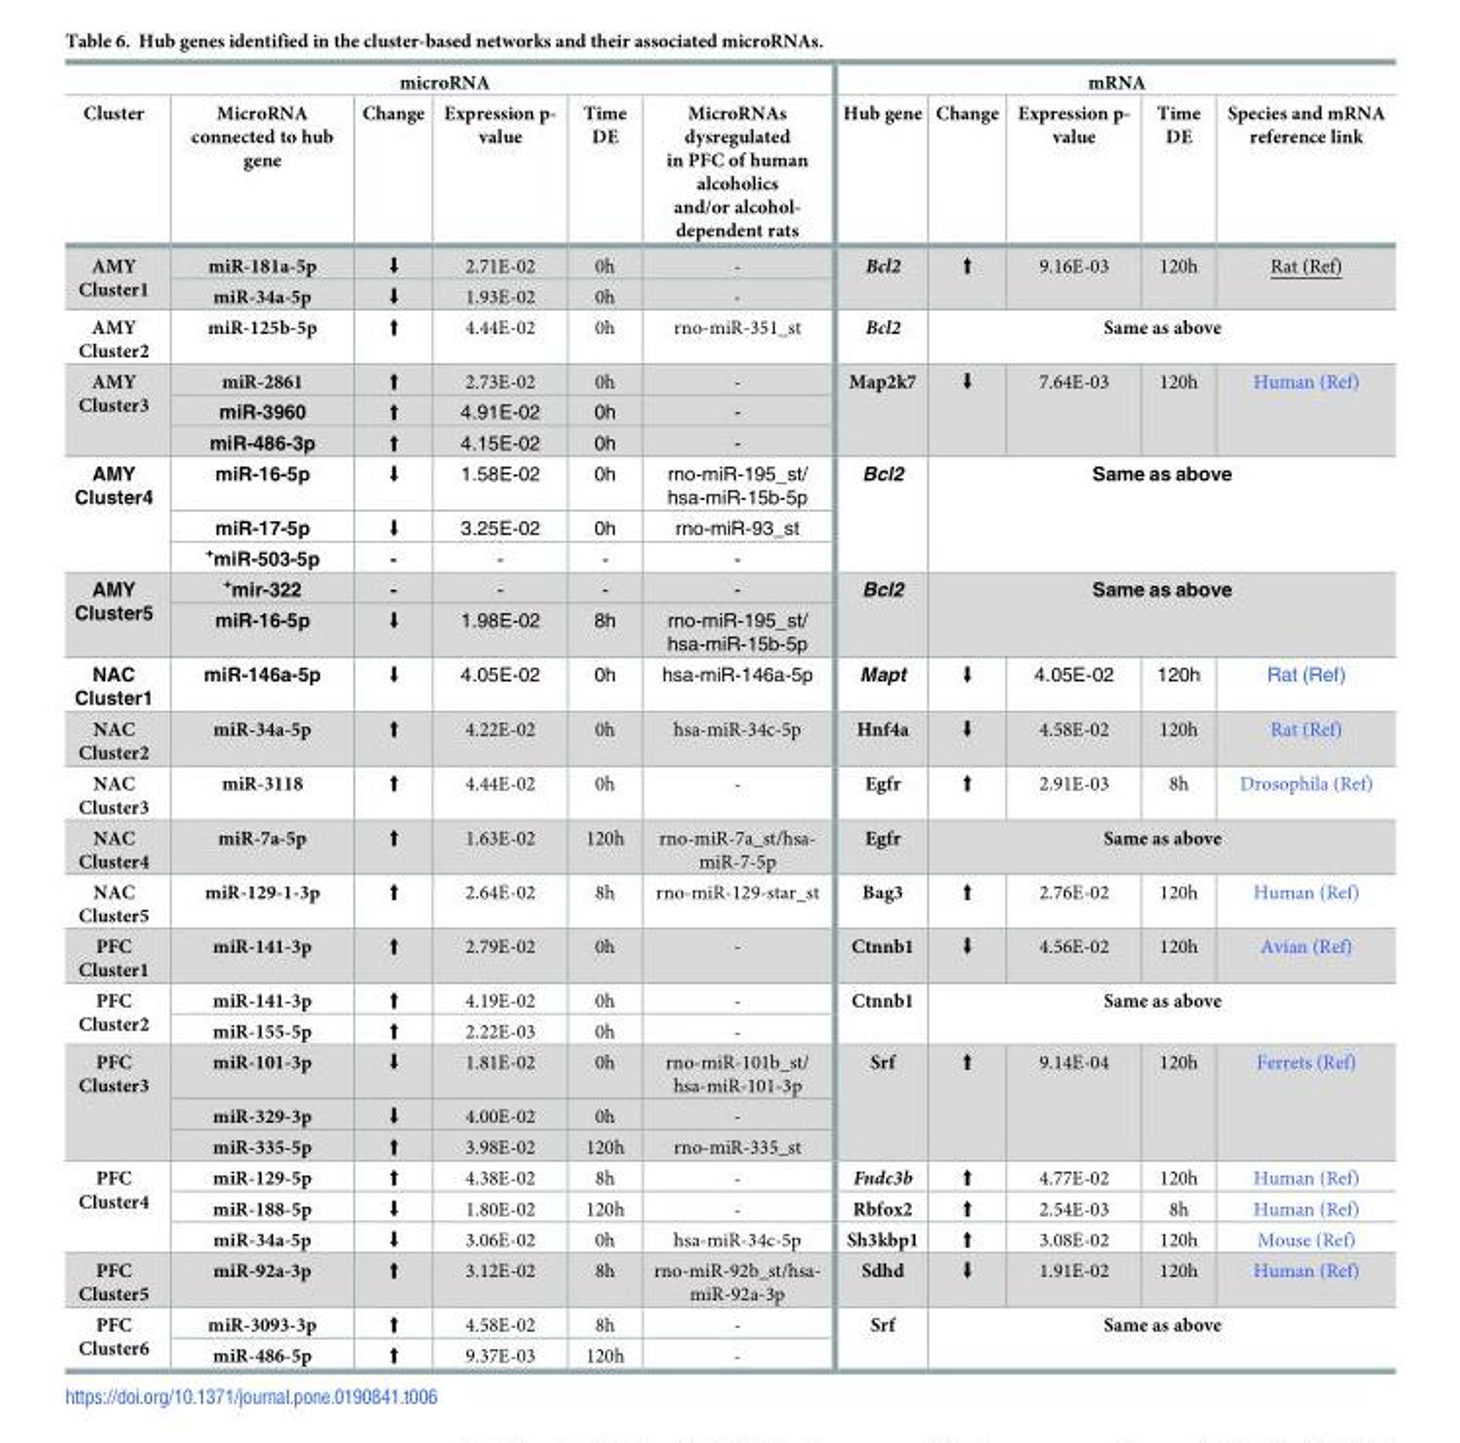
<table><thead><tr><td colspan="6">microRNA</td><td colspan="5">mRNA</td></tr><tr><td>Cluster</td><td>MicroRNA connected to hub gene</td><td>Change</td><td>Expression p- value</td><td>Time DE</td><td>MicroRNAs dysregulated in PFC of human alcoholics and/or alcohol- dependent rats</td><td>Hub gene</td><td>Change</td><td>Expression p- value</td><td>Time DE</td><td>Species and mRNA reference link</td></tr></thead><tbody><tr><td rowspan="2">AMY Cluster1</td><td>miR-181a-5p</td><td>⬇</td><td>2.71E-02</td><td>0h</td><td>-</td><td rowspan="2">Bcl2</td><td rowspan="2">⬆</td><td rowspan="2">9.16E-03</td><td rowspan="2">120h</td><td rowspan="2">Rat (Ref)</td></tr><tr><td>miR-34a-5p</td><td>⬇</td><td>1.93E-02</td><td>0h</td><td>-</td></tr><tr><td>AMY Cluster2</td><td>miR-125b-5p</td><td>⬆</td><td>4.44E-02</td><td>0h</td><td>rno-miR-351_st</td><td>Bcl2</td><td colspan="4">Same as above</td></tr><tr><td rowspan="3">AMY Cluster3</td><td>miR-2861</td><td>⬆</td><td>2.73E-02</td><td>0h</td><td>-</td><td rowspan="3">Map2k7</td><td rowspan="3">⬇</td><td rowspan="3">7.64E-03</td><td rowspan="3">120h</td><td rowspan="3">Human (Ref)</td></tr><tr><td>miR-3960</td><td>⬆</td><td>4.91E-02</td><td>0h</td><td>-</td></tr><tr><td>miR-486-3p</td><td>⬆</td><td>4.15E-02</td><td>0h</td><td>-</td></tr><tr><td rowspan="3">AMY Cluster4</td><td>miR-16-5p</td><td>⬇</td><td>1.58E-02</td><td>0h</td><td>rno-miR-195_st/ hsa-miR-15b-5p</td><td rowspan="3">Bcl2</td><td rowspan="3" colspan="4">Same as above</td></tr><tr><td>miR-17-5p</td><td>⬇</td><td>3.25E-02</td><td>0h</td><td>rno-miR-93_st</td></tr><tr><td><sup>+</sup>miR-503-5p</td><td>-</td><td>-</td><td>-</td><td>-</td></tr><tr><td rowspan="2">AMY Cluster5</td><td><sup>+</sup>mir-322</td><td>-</td><td>-</td><td>-</td><td>-</td><td rowspan="2">Bcl2</td><td rowspan="2" colspan="4">Same as above</td></tr><tr><td>miR-16-5p</td><td>⬇</td><td>1.98E-02</td><td>8h</td><td>rno-miR-195_st/ hsa-miR-15b-5p</td></tr><tr><td>NAC Cluster1</td><td>miR-146a-5p</td><td>⬇</td><td>4.05E-02</td><td>0h</td><td>hsa-miR-146a-5p</td><td>Mapt</td><td>⬇</td><td>4.05E-02</td><td>120h</td><td>Rat (Ref)</td></tr><tr><td>NAC Cluster2</td><td>miR-34a-5p</td><td>⬆</td><td>4.22E-02</td><td>0h</td><td>hsa-miR-34c-5p</td><td>Hnf4a</td><td>⬇</td><td>4.58E-02</td><td>120h</td><td>Rat (Ref)</td></tr><tr><td>NAC Cluster3</td><td>miR-3118</td><td>⬆</td><td>4.44E-02</td><td>0h</td><td>-</td><td>Egfr</td><td>⬆</td><td>2.91E-03</td><td>8h</td><td>Drosophila (Ref)</td></tr><tr><td>NAC Cluster4</td><td>miR-7a-5p</td><td>⬆</td><td>1.63E-02</td><td>120h</td><td>rno-miR-7a_st/hsa- miR-7-5p</td><td>Egfr</td><td colspan="4">Same as above</td></tr><tr><td>NAC Cluster5</td><td>miR-129-1-3p</td><td>⬆</td><td>2.64E-02</td><td>8h</td><td>rno-miR-129-star_st</td><td>Bag3</td><td>⬆</td><td>2.76E-02</td><td>120h</td><td>Human (Ref)</td></tr><tr><td>PFC Cluster1</td><td>miR-141-3p</td><td>⬆</td><td>2.79E-02</td><td>0h</td><td>-</td><td>Ctnnb1</td><td>⬇</td><td>4.56E-02</td><td>120h</td><td>Avian (Ref)</td></tr><tr><td rowspan="2">PFC Cluster2</td><td>miR-141-3p</td><td>⬆</td><td>4.19E-02</td><td>0h</td><td>-</td><td rowspan="2">Ctnnb1</td><td rowspan="2" colspan="4">Same as above</td></tr><tr><td>miR-155-5p</td><td>⬆</td><td>2.22E-03</td><td>0h</td><td>-</td></tr><tr><td rowspan="3">PFC Cluster3</td><td>miR-101-3p</td><td>⬇</td><td>1.81E-02</td><td>0h</td><td>rno-miR-101b_st/ hsa-miR-101-3p</td><td rowspan="3">Srf</td><td rowspan="3">⬆</td><td rowspan="3">9.14E-04</td><td rowspan="3">120h</td><td rowspan="3">Ferrets (Ref)</td></tr><tr><td>miR-329-3p</td><td>⬇</td><td>4.00E-02</td><td>0h</td><td>-</td></tr><tr><td>miR-335-5p</td><td>⬆</td><td>3.98E-02</td><td>120h</td><td>rno-miR-335_st</td></tr><tr><td rowspan="3">PFC Cluster4</td><td>miR-129-5p</td><td>⬆</td><td>4.38E-02</td><td>8h</td><td>-</td><td>Fndc3b</td><td>⬆</td><td>4.77E-02</td><td>120h</td><td>Human (Ref)</td></tr><tr><td>miR-188-5p</td><td>⬇</td><td>1.80E-02</td><td>120h</td><td>-</td><td>Rbfox2</td><td>⬆</td><td>2.54E-03</td><td>8h</td><td>Human (Ref)</td></tr><tr><td>miR-34a-5p</td><td>⬇</td><td>3.06E-02</td><td>0h</td><td>hsa-miR-34c-5p</td><td>Sh3kbp1</td><td>⬆</td><td>3.08E-02</td><td>120h</td><td>Mouse (Ref)</td></tr><tr><td>PFC Cluster5</td><td>miR-92a-3p</td><td>⬆</td><td>3.12E-02</td><td>8h</td><td>rno-miR-92b_st/hsa- miR-92a-3p</td><td>Sdhd</td><td>⬇</td><td>1.91E-02</td><td>120h</td><td>Human (Ref)</td></tr><tr><td rowspan="2">PFC Cluster6</td><td>miR-3093-3p</td><td>⬆</td><td>4.58E-02</td><td>8h</td><td>-</td><td rowspan="2">Srf</td><td rowspan="2" colspan="4">Same as above</td></tr><tr><td>miR-486-5p</td><td>⬆</td><td>9.37E-03</td><td>120h</td><td>-</td></tr></tbody></table>